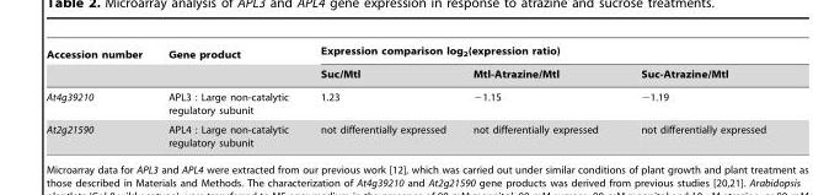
<table><thead><tr><td rowspan="2">Accession number</td><td rowspan="2">Gene product</td><td colspan="3">Expression comparison log<sub>2</sub>(expression ratio)</td></tr><tr><td>Suc/Mtl</td><td>Mtl-Atrazine/Mtl</td><td>Suc-Atrazine/Mtl</td></tr></thead><tbody><tr><td>At4g39210</td><td>APL3 : Large non-catalytic regulatory subunit</td><td>1.23</td><td>−1.15</td><td>−1.19</td></tr><tr><td>At2g21590</td><td>APL4 : Large non-catalytic regulatory subunit</td><td>not differentially expressed</td><td>not differentially expressed</td><td>not differentially expressed</td></tr></tbody></table>